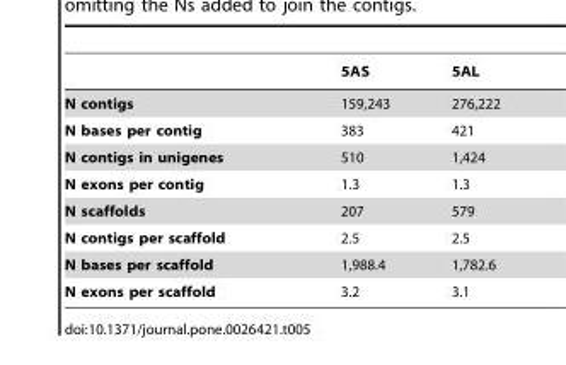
<table><thead><tr><td></td><td>5AS</td><td>5AL</td></tr></thead><tbody><tr><td>N contigs</td><td>159,243</td><td>276,222</td></tr><tr><td>N bases per contig</td><td>383</td><td>421</td></tr><tr><td>N contigs in unigenes</td><td>510</td><td>1,424</td></tr><tr><td>N exons per contig</td><td>1.3</td><td>1.3</td></tr><tr><td>N scaffolds</td><td>207</td><td>579</td></tr><tr><td>N contigs per scaffold</td><td>2.5</td><td>2.5</td></tr><tr><td>N bases per scaffold</td><td>1,988.4</td><td>1,782.6</td></tr><tr><td>N exons per scaffold</td><td>3.2</td><td>3.1</td></tr></tbody></table>